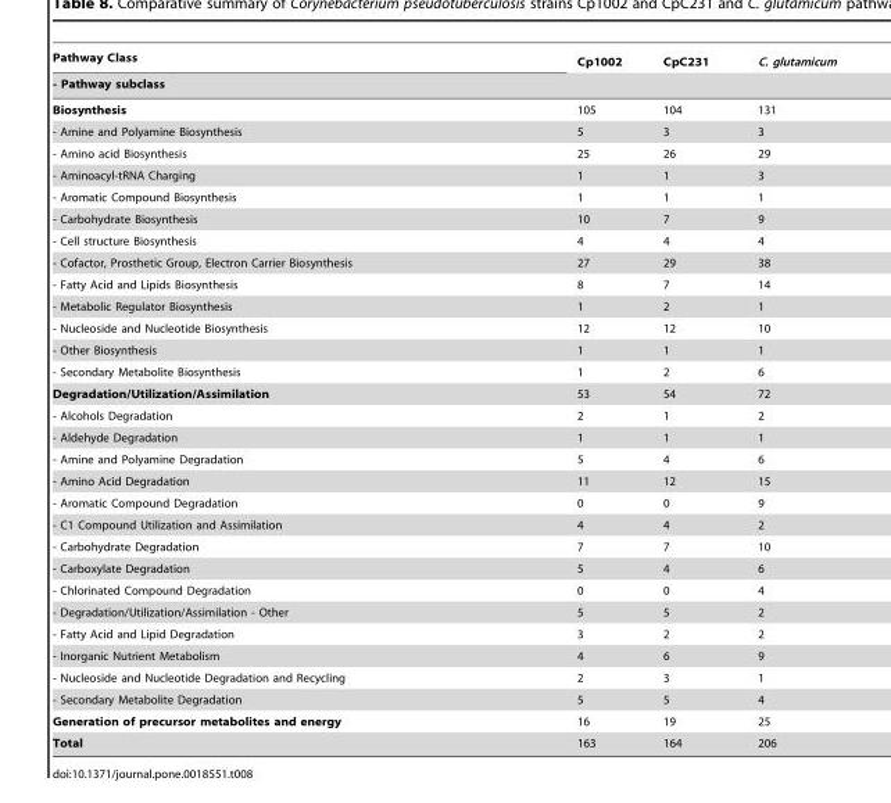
<table><thead><tr><td rowspan="2">Pathway Class - Pathway subclass</td><td rowspan="2">Cp1002</td><td rowspan="2">CpC231</td><td rowspan="2">C. glutamicum</td></tr><tr></tr></thead><tbody><tr><td>Biosynthesis</td><td>105</td><td>104</td><td>131</td></tr><tr><td>- Amine and Polyamine Biosynthesis</td><td>5</td><td>3</td><td>3</td></tr><tr><td>- Amino acid Biosynthesis</td><td>25</td><td>26</td><td>29</td></tr><tr><td>- Aminoacyl-tRNA Charging</td><td>1</td><td>1</td><td>3</td></tr><tr><td>- Aromatic Compound Biosynthesis</td><td>1</td><td>1</td><td>1</td></tr><tr><td>- Carbohydrate Biosynthesis</td><td>10</td><td>7</td><td>9</td></tr><tr><td>- Cell structure Biosynthesis</td><td>4</td><td>4</td><td>4</td></tr><tr><td>- Cofactor, Prosthetic Group, Electron Carrier Biosynthesis</td><td>27</td><td>29</td><td>38</td></tr><tr><td>- Fatty Acid and Lipids Biosynthesis</td><td>8</td><td>7</td><td>14</td></tr><tr><td>- Metabolic Regulator Biosynthesis</td><td>1</td><td>2</td><td>1</td></tr><tr><td>- Nucleoside and Nucleotide Biosynthesis</td><td>12</td><td>12</td><td>10</td></tr><tr><td>- Other Biosynthesis</td><td>1</td><td>1</td><td>1</td></tr><tr><td>- Secondary Metabolite Biosynthesis</td><td>1</td><td>2</td><td>6</td></tr><tr><td>Degradation/Utilization/Assimilation</td><td>53</td><td>54</td><td>72</td></tr><tr><td>- Alcohols Degradation</td><td>2</td><td>1</td><td>2</td></tr><tr><td>- Aldehyde Degradation</td><td>1</td><td>1</td><td>1</td></tr><tr><td>- Amine and Polyamine Degradation</td><td>5</td><td>4</td><td>6</td></tr><tr><td>- Amino Acid Degradation</td><td>11</td><td>12</td><td>15</td></tr><tr><td>- Aromatic Compound Degradation</td><td>0</td><td>0</td><td>9</td></tr><tr><td>- C1 Compound Utilization and Assimilation</td><td>4</td><td>4</td><td>2</td></tr><tr><td>- Carbohydrate Degradation</td><td>7</td><td>7</td><td>10</td></tr><tr><td>- Carboxylate Degradation</td><td>5</td><td>4</td><td>6</td></tr><tr><td>- Chlorinated Compound Degradation</td><td>0</td><td>0</td><td>4</td></tr><tr><td>- Degradation/Utilization/Assimilation - Other</td><td>5</td><td>5</td><td>2</td></tr><tr><td>- Fatty Acid and Lipid Degradation</td><td>3</td><td>2</td><td>2</td></tr><tr><td>- Inorganic Nutrient Metabolism</td><td>4</td><td>6</td><td>9</td></tr><tr><td>- Nucleoside and Nucleotide Degradation and Recycling</td><td>2</td><td>3</td><td>1</td></tr><tr><td>- Secondary Metabolite Degradation</td><td>5</td><td>5</td><td>4</td></tr><tr><td>Generation of precursor metabolites and energy</td><td>16</td><td>19</td><td>25</td></tr><tr><td>Total</td><td>163</td><td>164</td><td>206</td></tr></tbody></table>